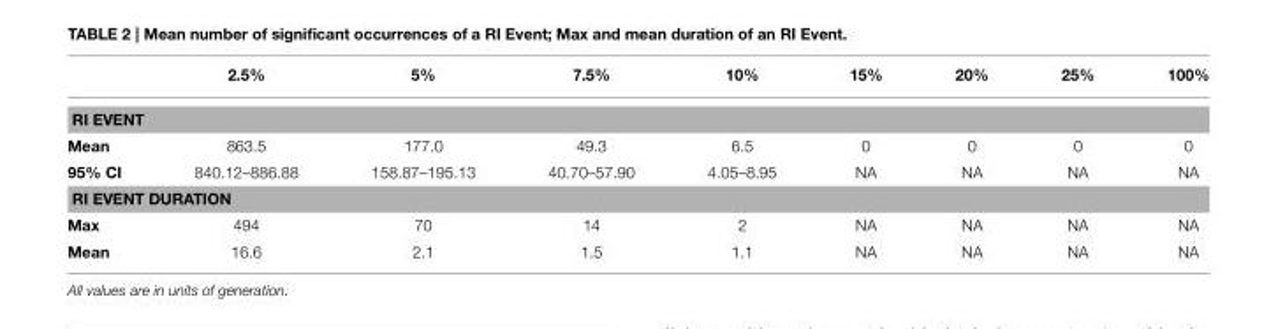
<table><thead><tr><td></td><td>2.5%</td><td>5%</td><td>7.5%</td><td>10%</td><td>15%</td><td>20%</td><td>25%</td><td>100%</td></tr></thead><tbody><tr><td colspan="9">RI EVENT</td></tr><tr><td>Mean</td><td>863.5</td><td>177.0</td><td>49.3</td><td>6.5</td><td>0</td><td>0</td><td>0</td><td>0</td></tr><tr><td>95% CI</td><td>840.12–886.88</td><td>158.87–195.13</td><td>40.70–57.90</td><td>4.05–8.95</td><td>NA</td><td>NA</td><td>NA</td><td>NA</td></tr><tr><td colspan="9">RI EVENT DURATION</td></tr><tr><td>Max</td><td>494</td><td>70</td><td>14</td><td>2</td><td>NA</td><td>NA</td><td>NA</td><td>NA</td></tr><tr><td>Mean</td><td>16.6</td><td>2.1</td><td>1.5</td><td>1.1</td><td>NA</td><td>NA</td><td>NA</td><td>NA</td></tr></tbody></table>